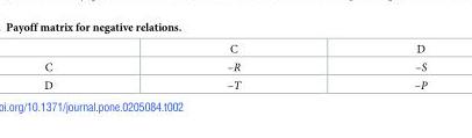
<table><thead><tr><td></td><td>C</td><td>D</td></tr></thead><tbody><tr><td>C</td><td>–R</td><td>–S</td></tr><tr><td>D</td><td>–T</td><td>–P</td></tr></tbody></table>